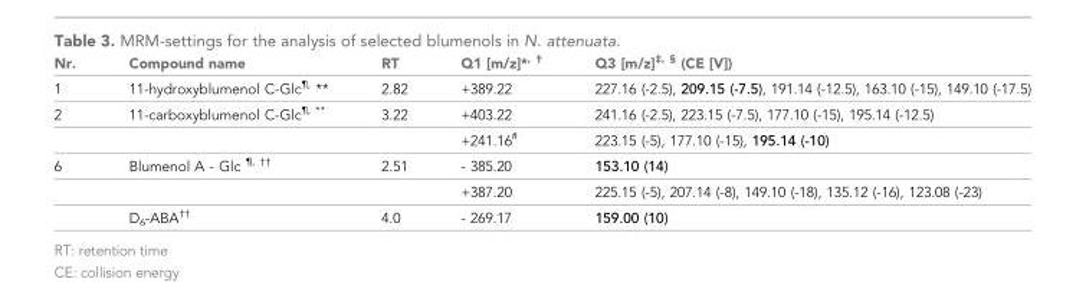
<table><thead><tr><td>Nr.</td><td>Compound name</td><td>RT</td><td>Q1 [m/z]*<sup>, †</sup></td><td>Q3 [m/z]<sup>‡, §</sup> (CE [V])</td></tr></thead><tbody><tr><td>1</td><td>11-hydroxyblumenol C-Glc<sup>¶,</sup> **</td><td>2.82</td><td>+389.22</td><td>227.16 (-2.5), 209.15 (-7.5), 191.14 (-12.5), 163.10 (-15), 149.10 (-17.5)</td></tr><tr><td rowspan="2">2</td><td>11-carboxyblumenol C-Glc<sup>¶, **</sup></td><td>3.22</td><td>+403.22</td><td>241.16 (-2.5), 223.15 (-7.5), 177.10 (-15), 195.14 (-12.5)</td></tr><tr><td></td><td></td><td>+241.16<sup>#</sup></td><td>223.15 (-5), 177.10 (-15), 195.14 (-10)</td></tr><tr><td rowspan="3">6</td><td>Blumenol A - Glc <sup>¶, ††</sup></td><td>2.51</td><td>- 385.20</td><td>153.10 (14)</td></tr><tr><td></td><td></td><td>+387.20</td><td>225.15 (-5), 207.14 (-8), 149.10 (-18), 135.12 (-16), 123.08 (-23)</td></tr><tr><td>D<sub>6</sub>-ABA<sup>††</sup></td><td>4.0</td><td>- 269.17</td><td>159.00 (10)</td></tr></tbody></table>